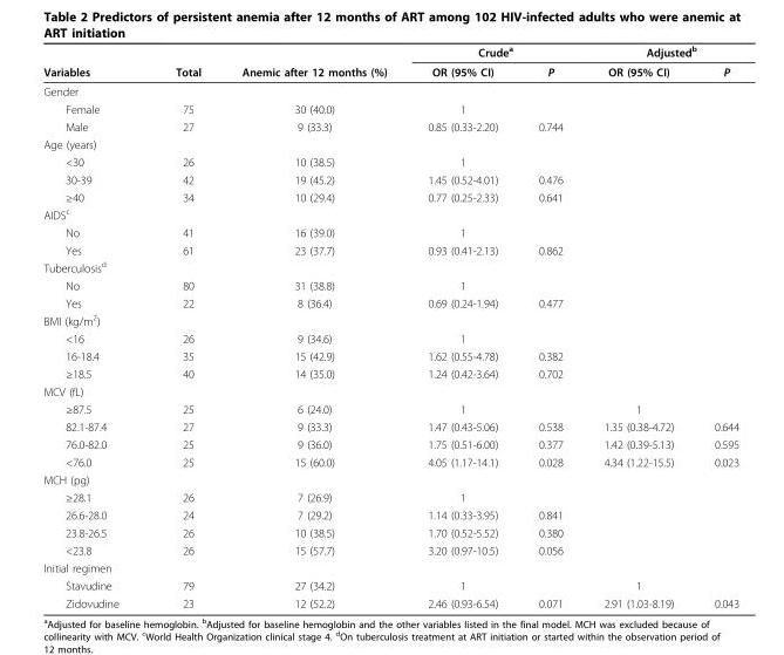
<table><thead><tr><td rowspan="2">Variables</td><td rowspan="2">Total</td><td rowspan="2">Anemic after 12 months (%)</td><td colspan="2">Crude<sup>a</sup></td><td colspan="2">Adjusted<sup>b</sup></td></tr><tr><td>OR (95% CI)</td><td>P</td><td>OR (95% CI)</td><td>P</td></tr></thead><tbody><tr><td colspan="7">Gender</td></tr><tr><td>Female</td><td>75</td><td>30 (40.0)</td><td>1</td><td></td><td></td><td></td></tr><tr><td>Male</td><td>27</td><td>9 (33.3)</td><td>0.85 (0.33-2.20)</td><td>0.744</td><td></td><td></td></tr><tr><td colspan="7">Age (years)</td></tr><tr><td>&lt;30</td><td>26</td><td>10 (38.5)</td><td>1</td><td></td><td></td><td></td></tr><tr><td>30-39</td><td>42</td><td>19 (45.2)</td><td>1.45 (0.52-4.01)</td><td>0.476</td><td></td><td></td></tr><tr><td>≥40</td><td>34</td><td>10 (29.4)</td><td>0.77 (0.25-2.33)</td><td>0.641</td><td></td><td></td></tr><tr><td colspan="7">AIDS<sup>c</sup></td></tr><tr><td>No</td><td>41</td><td>16 (39.0)</td><td>1</td><td></td><td></td><td></td></tr><tr><td>Yes</td><td>61</td><td>23 (37.7)</td><td>0.93 (0.41-2.13)</td><td>0.862</td><td></td><td></td></tr><tr><td colspan="7">Tuberculosis<sup>d</sup></td></tr><tr><td>No</td><td>80</td><td>31 (38.8)</td><td>1</td><td></td><td></td><td></td></tr><tr><td>Yes</td><td>22</td><td>8 (36.4)</td><td>0.69 (0.24-1.94)</td><td>0.477</td><td></td><td></td></tr><tr><td colspan="7">BMI (kg/m<sup>2</sup>)</td></tr><tr><td>&lt;16</td><td>26</td><td>9 (34.6)</td><td>1</td><td></td><td></td><td></td></tr><tr><td>16-18.4</td><td>35</td><td>15 (42.9)</td><td>1.62 (0.55-4.78)</td><td>0.382</td><td></td><td></td></tr><tr><td>≥18.5</td><td>40</td><td>14 (35.0)</td><td>1.24 (0.42-3.64)</td><td>0.702</td><td></td><td></td></tr><tr><td colspan="7">MCV (fL)</td></tr><tr><td>≥87.5</td><td>25</td><td>6 (24.0)</td><td>1</td><td></td><td>1</td><td></td></tr><tr><td>82.1-87.4</td><td>27</td><td>9 (33.3)</td><td>1.47 (0.43-5.06)</td><td>0.538</td><td>1.35 (0.38-4.72)</td><td>0.644</td></tr><tr><td>76.0-82.0</td><td>25</td><td>9 (36.0)</td><td>1.75 (0.51-6.00)</td><td>0.377</td><td>1.42 (0.39-5.13)</td><td>0.595</td></tr><tr><td>&lt;76.0</td><td>25</td><td>15 (60.0)</td><td>4.05 (1.17-14.1)</td><td>0.028</td><td>4.34 (1.22-15.5)</td><td>0.023</td></tr><tr><td colspan="7">MCH (pg)</td></tr><tr><td>≥28.1</td><td>26</td><td>7 (26.9)</td><td>1</td><td></td><td></td><td></td></tr><tr><td>26.6-28.0</td><td>24</td><td>7 (29.2)</td><td>1.14 (0.33-3.95)</td><td>0.841</td><td></td><td></td></tr><tr><td>23.8-26.5</td><td>26</td><td>10 (38.5)</td><td>1.70 (0.52-5.52)</td><td>0.380</td><td></td><td></td></tr><tr><td>&lt;23.8</td><td>26</td><td>15 (57.7)</td><td>3.20 (0.97-10.5)</td><td>0.056</td><td></td><td></td></tr><tr><td colspan="7">Initial regimen</td></tr><tr><td>Stavudine</td><td>79</td><td>27 (34.2)</td><td>1</td><td></td><td>1</td><td></td></tr><tr><td>Zidovudine</td><td>23</td><td>12 (52.2)</td><td>2.46 (0.93-6.54)</td><td>0.071</td><td>2.91 (1.03-8.19)</td><td>0.043</td></tr></tbody></table>